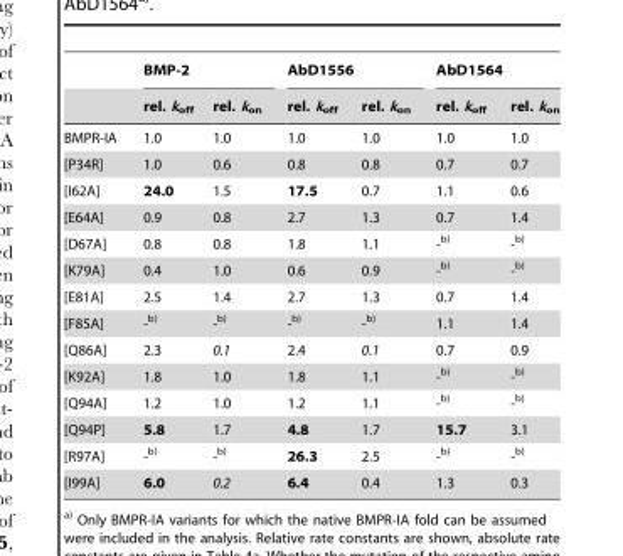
<table><thead><tr><td rowspan="2"></td><td colspan="2">BMP-2</td><td colspan="2">AbD1556</td><td colspan="2">AbD1564</td></tr><tr><td>rel. k<sub>off</sub></td><td>rel. k<sub>on</sub></td><td>rel. k<sub>off</sub></td><td>rel. k<sub>on</sub></td><td>rel. k<sub>off</sub></td><td>rel. k<sub>on</sub></td></tr></thead><tbody><tr><td>BMPR-IA</td><td>1.0</td><td>1.0</td><td>1.0</td><td>1.0</td><td>1.0</td><td>1.0</td></tr><tr><td>[P34R]</td><td>1.0</td><td>0.6</td><td>0.8</td><td>0.8</td><td>0.7</td><td>0.7</td></tr><tr><td>[I62A]</td><td>24.0</td><td>1.5</td><td>17.5</td><td>0.7</td><td>1.1</td><td>0.6</td></tr><tr><td>[E64A]</td><td>0.9</td><td>0.8</td><td>2.7</td><td>1.3</td><td>0.7</td><td>1.4</td></tr><tr><td>[D67A]</td><td>0.8</td><td>0.8</td><td>1.8</td><td>1.1</td><td>-<sup>b)</sup></td><td>-<sup>b)</sup></td></tr><tr><td>[K79A]</td><td>0.4</td><td>1.0</td><td>0.6</td><td>0.9</td><td>-<sup>b)</sup></td><td>-<sup>b)</sup></td></tr><tr><td>[E81A]</td><td>2.5</td><td>1.4</td><td>2.7</td><td>1.3</td><td>0.7</td><td>1.4</td></tr><tr><td>[F85A]</td><td>-<sup>b)</sup></td><td>-<sup>b)</sup></td><td>-<sup>b)</sup></td><td>-<sup>b)</sup></td><td>1.1</td><td>1.4</td></tr><tr><td>[Q86A]</td><td>2.3</td><td>0.1</td><td>2.4</td><td>0.1</td><td>0.7</td><td>0.9</td></tr><tr><td>[K92A]</td><td>1.8</td><td>1.0</td><td>1.8</td><td>1.1</td><td>-<sup>b)</sup></td><td>-<sup>b)</sup></td></tr><tr><td>[Q94A]</td><td>1.2</td><td>1.0</td><td>1.2</td><td>1.1</td><td>-<sup>b)</sup></td><td>-<sup>b)</sup></td></tr><tr><td>[Q94P]</td><td>5.8</td><td>1.7</td><td>4.8</td><td>1.7</td><td>15.7</td><td>3.1</td></tr><tr><td>[R97A]</td><td>-<sup>b)</sup></td><td>-<sup>b)</sup></td><td>26.3</td><td>2.5</td><td>-<sup>b)</sup></td><td>-<sup>b)</sup></td></tr><tr><td>[I99A]</td><td>6.0</td><td>0.2</td><td>6.4</td><td>0.4</td><td>1.3</td><td>0.3</td></tr></tbody></table>